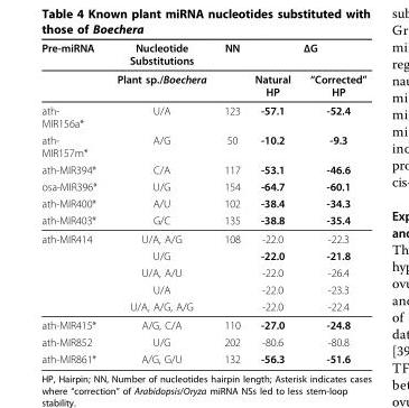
<table><thead><tr><td rowspan="2">Pre-miRNA</td><td rowspan="2">Nucleotide Substitutions Plant sp./Boechera</td><td rowspan="2">NN</td><td colspan="2">ΔG</td></tr><tr><td>Natural HP</td><td>“Corrected” HP</td></tr></thead><tbody><tr><td>ath- MIR156a*</td><td>U/A</td><td>123</td><td>-57.1</td><td>-52.4</td></tr><tr><td>ath- MIR157m*</td><td>A/G</td><td>50</td><td>-10.2</td><td>-9.3</td></tr><tr><td>ath-MIR394*</td><td>C/A</td><td>117</td><td>-53.1</td><td>-46.6</td></tr><tr><td>osa-MIR396*</td><td>U/G</td><td>154</td><td>-64.7</td><td>-60.1</td></tr><tr><td>ath-MIR400*</td><td>A/U</td><td>102</td><td>-38.4</td><td>-34.3</td></tr><tr><td>ath-MIR403*</td><td>G/C</td><td>135</td><td>-38.8</td><td>-35.4</td></tr><tr><td rowspan="5">ath-MIR414</td><td>U/A, A/G</td><td>108</td><td>-22.0</td><td>-22.3</td></tr><tr><td>U/G</td><td></td><td>-22.0</td><td>-21.8</td></tr><tr><td>U/A, A/U</td><td></td><td>-22.0</td><td>-26.4</td></tr><tr><td>U/A</td><td></td><td>-22.0</td><td>-23.3</td></tr><tr><td>U/A, A/G, A/G</td><td></td><td>-22.0</td><td>-22.4</td></tr><tr><td>ath-MIR415*</td><td>A/G, C/A</td><td>110</td><td>-27.0</td><td>-24.8</td></tr><tr><td>ath-MIR852</td><td>U/G</td><td>202</td><td>-80.6</td><td>-80.8</td></tr><tr><td>ath-MIR861*</td><td>A/G, G/U</td><td>132</td><td>-56.3</td><td>-51.6</td></tr></tbody></table>